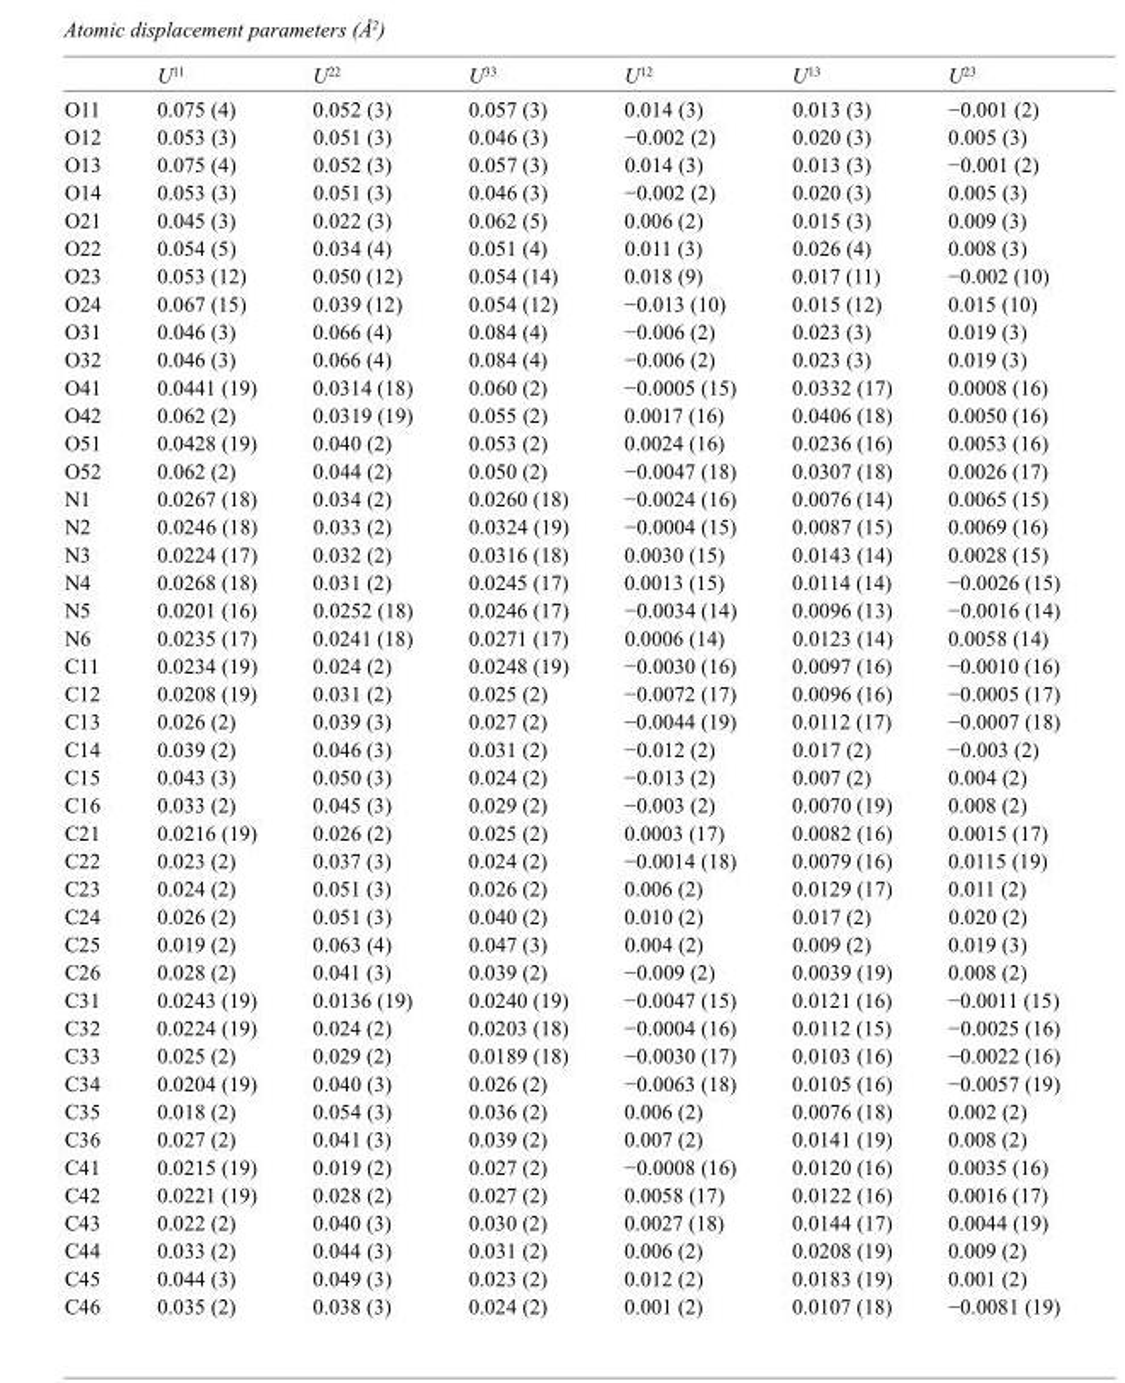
<table><thead><tr><td></td><td>U<sup>11</sup></td><td>U<sup>22</sup></td><td>U<sup>33</sup></td><td>U<sup>12</sup></td><td>U<sup>13</sup></td><td>U<sup>23</sup></td></tr></thead><tbody><tr><td>O11</td><td>0.075 (4)</td><td>0.052 (3)</td><td>0.057 (3)</td><td>0.014 (3)</td><td>0.013 (3)</td><td>−0.001 (2)</td></tr><tr><td>O12</td><td>0.053 (3)</td><td>0.051 (3)</td><td>0.046 (3)</td><td>−0.002 (2)</td><td>0.020 (3)</td><td>0.005 (3)</td></tr><tr><td>O13</td><td>0.075 (4)</td><td>0.052 (3)</td><td>0.057 (3)</td><td>0.014 (3)</td><td>0.013 (3)</td><td>−0.001 (2)</td></tr><tr><td>O14</td><td>0.053 (3)</td><td>0.051 (3)</td><td>0.046 (3)</td><td>−0.002 (2)</td><td>0.020 (3)</td><td>0.005 (3)</td></tr><tr><td>O21</td><td>0.045 (3)</td><td>0.022 (3)</td><td>0.062 (5)</td><td>0.006 (2)</td><td>0.015 (3)</td><td>0.009 (3)</td></tr><tr><td>O22</td><td>0.054 (5)</td><td>0.034 (4)</td><td>0.051 (4)</td><td>0.011 (3)</td><td>0.026 (4)</td><td>0.008 (3)</td></tr><tr><td>O23</td><td>0.053 (12)</td><td>0.050 (12)</td><td>0.054 (14)</td><td>0.018 (9)</td><td>0.017 (11)</td><td>−0.002 (10)</td></tr><tr><td>O24</td><td>0.067 (15)</td><td>0.039 (12)</td><td>0.054 (12)</td><td>−0.013 (10)</td><td>0.015 (12)</td><td>0.015 (10)</td></tr><tr><td>O31</td><td>0.046 (3)</td><td>0.066 (4)</td><td>0.084 (4)</td><td>−0.006 (2)</td><td>0.023 (3)</td><td>0.019 (3)</td></tr><tr><td>O32</td><td>0.046 (3)</td><td>0.066 (4)</td><td>0.084 (4)</td><td>−0.006 (2)</td><td>0.023 (3)</td><td>0.019 (3)</td></tr><tr><td>O41</td><td>0.0441 (19)</td><td>0.0314 (18)</td><td>0.060 (2)</td><td>−0.0005 (15)</td><td>0.0332 (17)</td><td>0.0008 (16)</td></tr><tr><td>O42</td><td>0.062 (2)</td><td>0.0319 (19)</td><td>0.055 (2)</td><td>0.0017 (16)</td><td>0.0406 (18)</td><td>0.0050 (16)</td></tr><tr><td>O51</td><td>0.0428 (19)</td><td>0.040 (2)</td><td>0.053 (2)</td><td>0.0024 (16)</td><td>0.0236 (16)</td><td>0.0053 (16)</td></tr><tr><td>O52</td><td>0.062 (2)</td><td>0.044 (2)</td><td>0.050 (2)</td><td>−0.0047 (18)</td><td>0.0307 (18)</td><td>0.0026 (17)</td></tr><tr><td>N1</td><td>0.0267 (18)</td><td>0.034 (2)</td><td>0.0260 (18)</td><td>−0.0024 (16)</td><td>0.0076 (14)</td><td>0.0065 (15)</td></tr><tr><td>N2</td><td>0.0246 (18)</td><td>0.033 (2)</td><td>0.0324 (19)</td><td>−0.0004 (15)</td><td>0.0087 (15)</td><td>0.0069 (16)</td></tr><tr><td>N3</td><td>0.0224 (17)</td><td>0.032 (2)</td><td>0.0316 (18)</td><td>0.0030 (15)</td><td>0.0143 (14)</td><td>0.0028 (15)</td></tr><tr><td>N4</td><td>0.0268 (18)</td><td>0.031 (2)</td><td>0.0245 (17)</td><td>0.0013 (15)</td><td>0.0114 (14)</td><td>−0.0026 (15)</td></tr><tr><td>N5</td><td>0.0201 (16)</td><td>0.0252 (18)</td><td>0.0246 (17)</td><td>−0.0034 (14)</td><td>0.0096 (13)</td><td>−0.0016 (14)</td></tr><tr><td>N6</td><td>0.0235 (17)</td><td>0.0241 (18)</td><td>0.0271 (17)</td><td>0.0006 (14)</td><td>0.0123 (14)</td><td>0.0058 (14)</td></tr><tr><td>C11</td><td>0.0234 (19)</td><td>0.024 (2)</td><td>0.0248 (19)</td><td>−0.0030 (16)</td><td>0.0097 (16)</td><td>−0.0010 (16)</td></tr><tr><td>C12</td><td>0.0208 (19)</td><td>0.031 (2)</td><td>0.025 (2)</td><td>−0.0072 (17)</td><td>0.0096 (16)</td><td>−0.0005 (17)</td></tr><tr><td>C13</td><td>0.026 (2)</td><td>0.039 (3)</td><td>0.027 (2)</td><td>−0.0044 (19)</td><td>0.0112 (17)</td><td>−0.0007 (18)</td></tr><tr><td>C14</td><td>0.039 (2)</td><td>0.046 (3)</td><td>0.031 (2)</td><td>−0.012 (2)</td><td>0.017 (2)</td><td>−0.003 (2)</td></tr><tr><td>C15</td><td>0.043 (3)</td><td>0.050 (3)</td><td>0.024 (2)</td><td>−0.013 (2)</td><td>0.007 (2)</td><td>0.004 (2)</td></tr><tr><td>C16</td><td>0.033 (2)</td><td>0.045 (3)</td><td>0.029 (2)</td><td>−0.003 (2)</td><td>0.0070 (19)</td><td>0.008 (2)</td></tr><tr><td>C21</td><td>0.0216 (19)</td><td>0.026 (2)</td><td>0.025 (2)</td><td>0.0003 (17)</td><td>0.0082 (16)</td><td>0.0015 (17)</td></tr><tr><td>C22</td><td>0.023 (2)</td><td>0.037 (3)</td><td>0.024 (2)</td><td>−0.0014 (18)</td><td>0.0079 (16)</td><td>0.0115 (19)</td></tr><tr><td>C23</td><td>0.024 (2)</td><td>0.051 (3)</td><td>0.026 (2)</td><td>0.006 (2)</td><td>0.0129 (17)</td><td>0.011 (2)</td></tr><tr><td>C24</td><td>0.026 (2)</td><td>0.051 (3)</td><td>0.040 (2)</td><td>0.010 (2)</td><td>0.017 (2)</td><td>0.020 (2)</td></tr><tr><td>C25</td><td>0.019 (2)</td><td>0.063 (4)</td><td>0.047 (3)</td><td>0.004 (2)</td><td>0.009 (2)</td><td>0.019 (3)</td></tr><tr><td>C26</td><td>0.028 (2)</td><td>0.041 (3)</td><td>0.039 (2)</td><td>−0.009 (2)</td><td>0.0039 (19)</td><td>0.008 (2)</td></tr><tr><td>C31</td><td>0.0243 (19)</td><td>0.0136 (19)</td><td>0.0240 (19)</td><td>−0.0047 (15)</td><td>0.0121 (16)</td><td>−0.0011 (15)</td></tr><tr><td>C32</td><td>0.0224 (19)</td><td>0.024 (2)</td><td>0.0203 (18)</td><td>−0.0004 (16)</td><td>0.0112 (15)</td><td>−0.0025 (16)</td></tr><tr><td>C33</td><td>0.025 (2)</td><td>0.029 (2)</td><td>0.0189 (18)</td><td>−0.0030 (17)</td><td>0.0103 (16)</td><td>−0.0022 (16)</td></tr><tr><td>C34</td><td>0.0204 (19)</td><td>0.040 (3)</td><td>0.026 (2)</td><td>−0.0063 (18)</td><td>0.0105 (16)</td><td>−0.0057 (19)</td></tr><tr><td>C35</td><td>0.018 (2)</td><td>0.054 (3)</td><td>0.036 (2)</td><td>0.006 (2)</td><td>0.0076 (18)</td><td>0.002 (2)</td></tr><tr><td>C36</td><td>0.027 (2)</td><td>0.041 (3)</td><td>0.039 (2)</td><td>0.007 (2)</td><td>0.0141 (19)</td><td>0.008 (2)</td></tr><tr><td>C41</td><td>0.0215 (19)</td><td>0.019 (2)</td><td>0.027 (2)</td><td>−0.0008 (16)</td><td>0.0120 (16)</td><td>0.0035 (16)</td></tr><tr><td>C42</td><td>0.0221 (19)</td><td>0.028 (2)</td><td>0.027 (2)</td><td>0.0058 (17)</td><td>0.0122 (16)</td><td>0.0016 (17)</td></tr><tr><td>C43</td><td>0.022 (2)</td><td>0.040 (3)</td><td>0.030 (2)</td><td>0.0027 (18)</td><td>0.0144 (17)</td><td>0.0044 (19)</td></tr><tr><td>C44</td><td>0.033 (2)</td><td>0.044 (3)</td><td>0.031 (2)</td><td>0.006 (2)</td><td>0.0208 (19)</td><td>0.009 (2)</td></tr><tr><td>C45</td><td>0.044 (3)</td><td>0.049 (3)</td><td>0.023 (2)</td><td>0.012 (2)</td><td>0.0183 (19)</td><td>0.001 (2)</td></tr><tr><td>C46</td><td>0.035 (2)</td><td>0.038 (3)</td><td>0.024 (2)</td><td>0.001 (2)</td><td>0.0107 (18)</td><td>−0.0081 (19)</td></tr></tbody></table>